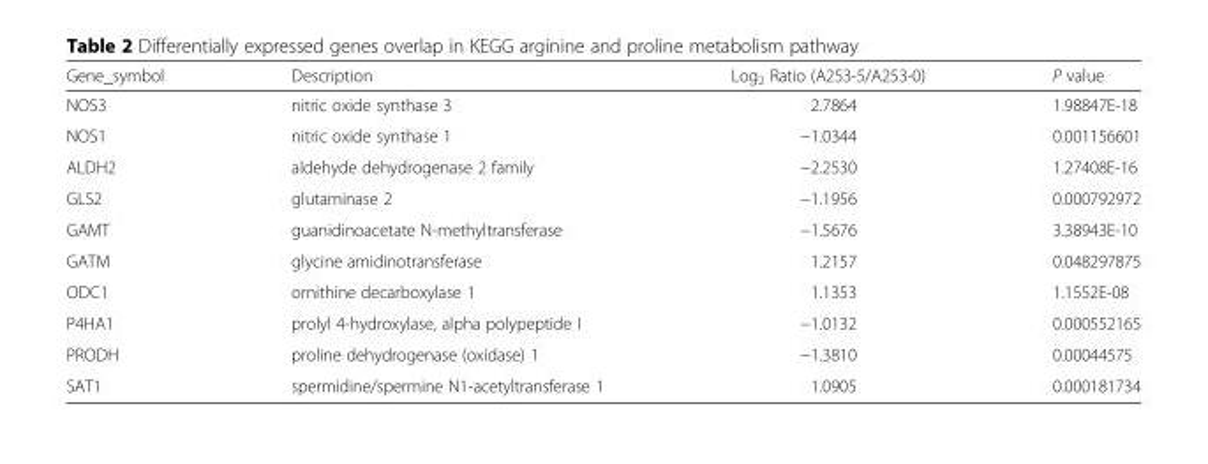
<table><thead><tr><td>Gene_symbol</td><td>Description</td><td>Log<sub>2</sub> Ratio (A253-5/A253-0)</td><td>P value</td></tr></thead><tbody><tr><td>NOS3</td><td>nitric oxide synthase 3</td><td>2.7864</td><td>1.98847E-18</td></tr><tr><td>NOS1</td><td>nitric oxide synthase 1</td><td>−1.0344</td><td>0.001156601</td></tr><tr><td>ALDH2</td><td>aldehyde dehydrogenase 2 family</td><td>−2.2530</td><td>1.27408E-16</td></tr><tr><td>GLS2</td><td>glutaminase 2</td><td>−1.1956</td><td>0.000792972</td></tr><tr><td>GAMT</td><td>guanidinoacetate N-methyltransferase</td><td>−1.5676</td><td>3.38943E-10</td></tr><tr><td>GATM</td><td>glycine amidinotransferase</td><td>1.2157</td><td>0.048297875</td></tr><tr><td>ODC1</td><td>ornithine decarboxylase 1</td><td>1.1353</td><td>1.1552E-08</td></tr><tr><td>P4HA1</td><td>prolyl 4-hydroxylase, alpha polypeptide I</td><td>−1.0132</td><td>0.000552165</td></tr><tr><td>PRODH</td><td>proline dehydrogenase (oxidase) 1</td><td>−1.3810</td><td>0.00044575</td></tr><tr><td>SAT1</td><td>spermidine/spermine N1-acetyltransferase 1</td><td>1.0905</td><td>0.000181734</td></tr></tbody></table>